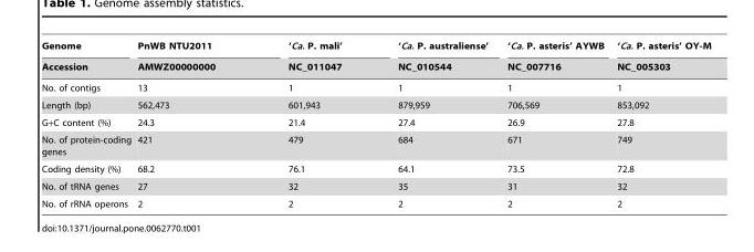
<table><thead><tr><td rowspan="2">Genome Accession</td><td rowspan="2">PnWB NTU2011 AMWZ00000000</td><td rowspan="2">‘Ca. P. mali’ NC_011047</td><td rowspan="2">‘Ca. P. australiense’ NC_010544</td><td rowspan="2">‘Ca. P. asteris’ AYWB NC_007716</td><td rowspan="2">‘Ca. P. asteris’ OY-M NC_005303</td></tr><tr></tr></thead><tbody><tr><td>No. of contigs</td><td>13</td><td>1</td><td>1</td><td>1</td><td>1</td></tr><tr><td>Length (bp)</td><td>562,473</td><td>601,943</td><td>879,959</td><td>706,569</td><td>853,092</td></tr><tr><td>G+C content (%)</td><td>24.3</td><td>21.4</td><td>27.4</td><td>26.9</td><td>27.8</td></tr><tr><td>No. of protein-coding genes</td><td>421</td><td>479</td><td>684</td><td>671</td><td>749</td></tr><tr><td>Coding density (%)</td><td>68.2</td><td>76.1</td><td>64.1</td><td>73.5</td><td>72.8</td></tr><tr><td>No. of tRNA genes</td><td>27</td><td>32</td><td>35</td><td>31</td><td>32</td></tr><tr><td>No. of rRNA operons</td><td>2</td><td>2</td><td>2</td><td>2</td><td>2</td></tr></tbody></table>